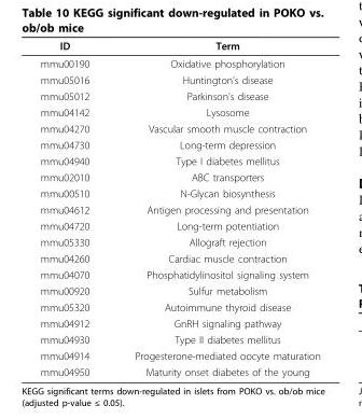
<table><thead><tr><td>ID</td><td>Term</td></tr></thead><tbody><tr><td>mmu00190</td><td>Oxidative phosphorylation</td></tr><tr><td>mmu05016</td><td>Huntington’s disease</td></tr><tr><td>mmu05012</td><td>Parkinson’s disease</td></tr><tr><td>mmu04142</td><td>Lysosome</td></tr><tr><td>mmu04270</td><td>Vascular smooth muscle contraction</td></tr><tr><td>mmu04730</td><td>Long-term depression</td></tr><tr><td>mmu04940</td><td>Type I diabetes mellitus</td></tr><tr><td>mmu02010</td><td>ABC transporters</td></tr><tr><td>mmu00510</td><td>N-Glycan biosynthesis</td></tr><tr><td>mmu04612</td><td>Antigen processing and presentation</td></tr><tr><td>mmu04720</td><td>Long-term potentiation</td></tr><tr><td>mmu05330</td><td>Allograft rejection</td></tr><tr><td>mmu04260</td><td>Cardiac muscle contraction</td></tr><tr><td>mmu04070</td><td>Phosphatidylinositol signaling system</td></tr><tr><td>mmu00920</td><td>Sulfur metabolism</td></tr><tr><td>mmu05320</td><td>Autoimmune thyroid disease</td></tr><tr><td>mmu04912</td><td>GnRH signaling pathway</td></tr><tr><td>mmu04930</td><td>Type II diabetes mellitus</td></tr><tr><td>mmu04914</td><td>Progesterone-mediated oocyte maturation</td></tr><tr><td>mmu04950</td><td>Maturity onset diabetes of the young</td></tr></tbody></table>